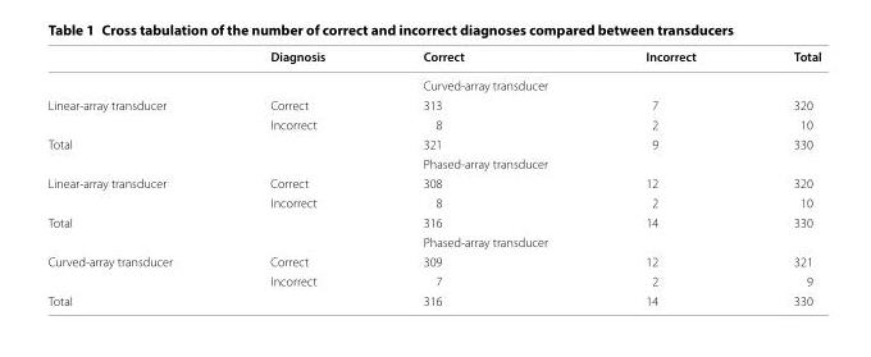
<table><thead><tr><td></td><td>Diagnosis</td><td>Correct</td><td>Incorrect</td><td>Total</td></tr></thead><tbody><tr><td></td><td></td><td colspan="2">Curved-array transducer</td><td></td></tr><tr><td rowspan="2">Linear-array transducer</td><td>Correct</td><td>313</td><td>7</td><td>320</td></tr><tr><td>Incorrect</td><td>8</td><td>2</td><td>10</td></tr><tr><td rowspan="2">Total</td><td></td><td>321</td><td>9</td><td>330</td></tr><tr><td></td><td colspan="2">Phased-array transducer</td><td></td></tr><tr><td rowspan="2">Linear-array transducer</td><td>Correct</td><td>308</td><td>12</td><td>320</td></tr><tr><td>Incorrect</td><td>8</td><td>2</td><td>10</td></tr><tr><td rowspan="2">Total</td><td></td><td>316</td><td>14</td><td>330</td></tr><tr><td></td><td colspan="2">Phased-array transducer</td><td></td></tr><tr><td rowspan="2">Curved-array transducer</td><td>Correct</td><td>309</td><td>12</td><td>321</td></tr><tr><td>Incorrect</td><td>7</td><td>2</td><td>9</td></tr><tr><td>Total</td><td></td><td>316</td><td>14</td><td>330</td></tr></tbody></table>